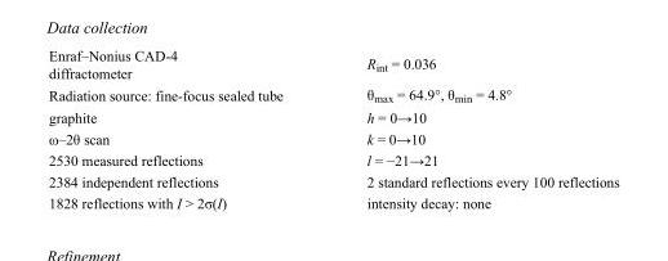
<table><tbody><tr><td>Enraf–Nonius CAD-4 diffractometer</td><td>R<sub>int</sub> = 0.036</td></tr><tr><td>Radiation source: fine-focus sealed tube</td><td>θ<sub>max</sub> = 64.9°, θ<sub>min</sub> = 4.8°</td></tr><tr><td>graphite</td><td>h = 0→10</td></tr><tr><td>ω–2θ scan</td><td>k = 0→10</td></tr><tr><td>2530 measured reflections</td><td>l = −21→21</td></tr><tr><td>2384 independent reflections</td><td>2 standard reflections every 100 reflections</td></tr><tr><td>1828 reflections with I &gt; 2σ(I)</td><td>intensity decay: none</td></tr></tbody></table>